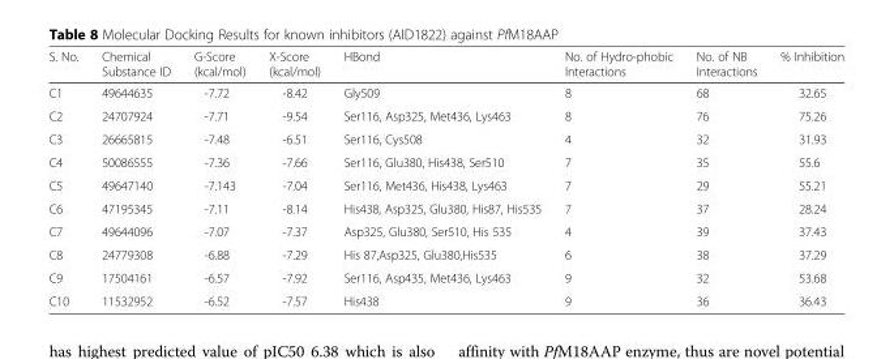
<table><thead><tr><td>S. No.</td><td>Chemical Substance ID</td><td>G-Score (kcal/mol)</td><td>X-Score (kcal/mol)</td><td>HBond</td><td>No. of Hydro-phobic Interactions</td><td>No. of NB Interactions</td><td>% Inhibition</td></tr></thead><tbody><tr><td>C1</td><td>49644635</td><td>-7.72</td><td>-8.42</td><td>Gly509</td><td>8</td><td>68</td><td>32.65</td></tr><tr><td>C2</td><td>24707924</td><td>-7.71</td><td>-9.54</td><td>Ser116, Asp325, Met436, Lys463</td><td>8</td><td>76</td><td>75.26</td></tr><tr><td>C3</td><td>26665815</td><td>-7.48</td><td>-6.51</td><td>Ser116, Cys508</td><td>4</td><td>32</td><td>31.93</td></tr><tr><td>C4</td><td>50086555</td><td>-7.36</td><td>-7.66</td><td>Ser116, Glu380, His438, Ser510</td><td>7</td><td>35</td><td>55.6</td></tr><tr><td>C5</td><td>49647140</td><td>-7.143</td><td>-7.04</td><td>Ser116, Met436, His438, Lys463</td><td>7</td><td>29</td><td>55.21</td></tr><tr><td>C6</td><td>47195345</td><td>-7.11</td><td>-8.14</td><td>His438, Asp325, Glu380, His87, His535</td><td>7</td><td>37</td><td>28.24</td></tr><tr><td>C7</td><td>49644096</td><td>-7.07</td><td>-7.37</td><td>Asp325, Glu380, Ser510, His 535</td><td>4</td><td>39</td><td>37.43</td></tr><tr><td>C8</td><td>24779308</td><td>-6.88</td><td>-7.29</td><td>His 87,Asp325, Glu380,His535</td><td>6</td><td>38</td><td>37.29</td></tr><tr><td>C9</td><td>17504161</td><td>-6.57</td><td>-7.92</td><td>Ser116, Asp435, Met436, Lys463</td><td>9</td><td>32</td><td>53.68</td></tr><tr><td>C10</td><td>11532952</td><td>-6.52</td><td>-7.57</td><td>His438</td><td>9</td><td>36</td><td>36.43</td></tr></tbody></table>